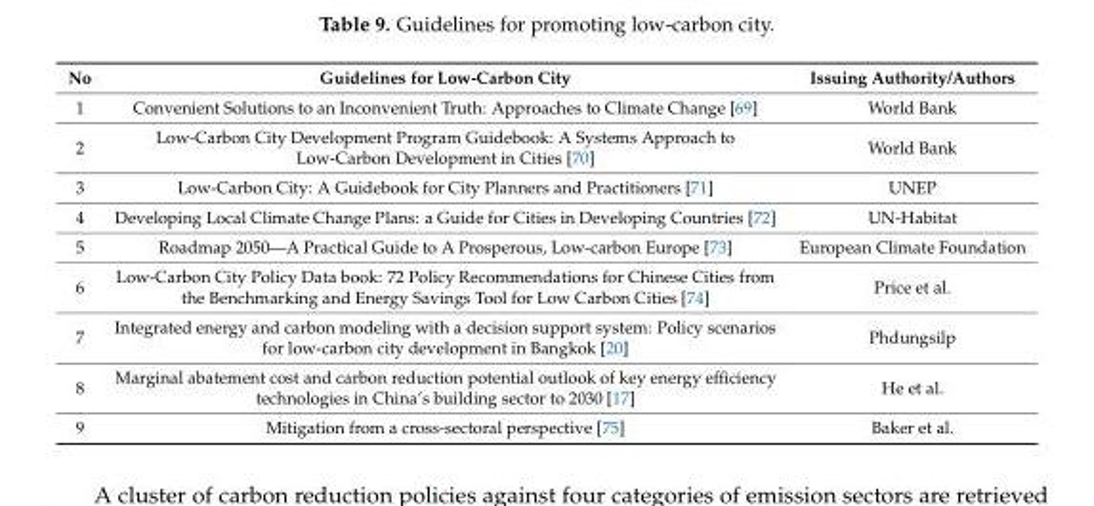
<table><thead><tr><td>No</td><td>Guidelines for Low-Carbon City</td><td>Issuing Authority/Authors</td></tr></thead><tbody><tr><td>1</td><td>Convenient Solutions to an Inconvenient Truth: Approaches to Climate Change [69]</td><td>World Bank</td></tr><tr><td>2</td><td>Low-Carbon City Development Program Guidebook: A Systems Approach to Low-Carbon Development in Cities [70]</td><td>World Bank</td></tr><tr><td>3</td><td>Low-Carbon City: A Guidebook for City Planners and Practitioners [71]</td><td>UNEP</td></tr><tr><td>4</td><td>Developing Local Climate Change Plans: a Guide for Cities in Developing Countries [72]</td><td>UN-Habitat</td></tr><tr><td>5</td><td>Roadmap 2050—A Practical Guide to A Prosperous, Low-carbon Europe [73]</td><td>European Climate Foundation</td></tr><tr><td>6</td><td>Low-Carbon City Policy Data book: 72 Policy Recommendations for Chinese Cities from the Benchmarking and Energy Savings Tool for Low Carbon Cities [74]</td><td>Price et al.</td></tr><tr><td>7</td><td>Integrated energy and carbon modeling with a decision support system: Policy scenarios for low-carbon city development in Bangkok [20]</td><td>Phdungsilp</td></tr><tr><td>8</td><td>Marginal abatement cost and carbon reduction potential outlook of key energy efficiency technologies in China’s building sector to 2030 [17]</td><td>He et al.</td></tr><tr><td>9</td><td>Mitigation from a cross-sectoral perspective [75]</td><td>Baker et al.</td></tr></tbody></table>